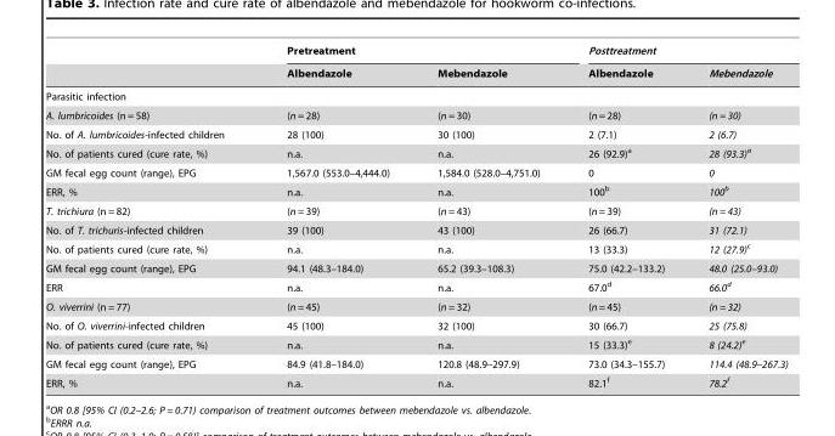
<table><thead><tr><td rowspan="2"></td><td colspan="2">Pretreatment</td><td colspan="2">Posttreatment</td></tr><tr><td>Albendazole</td><td>Mebendazole</td><td>Albendazole</td><td>Mebendazole</td></tr></thead><tbody><tr><td colspan="5">Parasitic infection</td></tr><tr><td>A. lumbricoides (n = 58)</td><td>(n = 28)</td><td>(n = 30)</td><td>(n = 28)</td><td>(n = 30)</td></tr><tr><td>No. of A. lumbricoides-infected children</td><td>28 (100)</td><td>30 (100)</td><td>2 (7.1)</td><td>2 (6.7)</td></tr><tr><td>No. of patients cured (cure rate, %)</td><td>n.a.</td><td>n.a.</td><td>26 (92.9)<sup>a</sup></td><td>28 (93.3)a</td></tr><tr><td>GM fecal egg count (range), EPG</td><td>1,567.0 (553.0–4,444.0)</td><td>1,584.0 (528.0–4,751.0)</td><td>0</td><td>0</td></tr><tr><td>ERR, %</td><td>n.a.</td><td>n.a.</td><td>100<sup>b</sup></td><td>100b</td></tr><tr><td>T. trichiura (n = 82)</td><td>(n = 39)</td><td>(n = 43)</td><td>(n = 39)</td><td>(n = 43)</td></tr><tr><td>No. of T. trichuris-infected children</td><td>39 (100)</td><td>43 (100)</td><td>26 (66.7)</td><td>31 (72.1)</td></tr><tr><td>No. of patients cured (cure rate, %)</td><td>n.a.</td><td>n.a.</td><td>13 (33.3)</td><td>12 (27.9)c</td></tr><tr><td>GM fecal egg count (range), EPG</td><td>94.1 (48.3–184.0)</td><td>65.2 (39.3–108.3)</td><td>75.0 (42.2–133.2)</td><td>48.0 (25.0–93.0)</td></tr><tr><td>ERR</td><td>n.a.</td><td>n.a.</td><td>67.0<sup>d</sup></td><td>66.0d</td></tr><tr><td>O. viverrini (n = 77)</td><td>(n = 45)</td><td>(n = 32)</td><td>(n = 45)</td><td>(n = 32)</td></tr><tr><td>No. of O. viverrini-infected children</td><td>45 (100)</td><td>32 (100)</td><td>30 (66.7)</td><td>25 (75.8)</td></tr><tr><td>No. of patients cured (cure rate, %)</td><td>n.a.</td><td>n.a.</td><td>15 (33.3)<sup>e</sup></td><td>8 (24.2)e</td></tr><tr><td>GM fecal egg count (range), EPG</td><td>84.9 (41.8–184.0)</td><td>120.8 (48.9–297.9)</td><td>73.0 (34.3–155.7)</td><td>114.4 (48.9–267.3)</td></tr><tr><td>ERR, %</td><td>n.a.</td><td>n.a.</td><td>82.1<sup>f</sup></td><td>78.2f</td></tr></tbody></table>